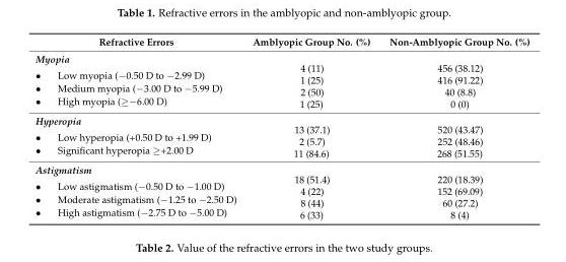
<table><thead><tr><td>Refractive Errors</td><td>Amblyopic Group No. (%)</td><td>Non-Amblyopic Group No. (%)</td></tr></thead><tbody><tr><td>Myopia • Low myopia (−0.50 D to −2.99 D) • Medium myopia (−3.00 D to −5.99 D) • High myopia (≥−6.00 D)</td><td>4 (11) 1 (25) 2 (50) 1 (25)</td><td>456 (38.12) 416 (91.22) 40 (8.8) 0 (0)</td></tr><tr><td>Hyperopia • Low hyperopia (+0.50 D to +1.99 D) • Significant hyperopia ≥+2.00 D</td><td>13 (37.1) 2 (5.7) 11 (84.6)</td><td>520 (43.47) 252 (48.46) 268 (51.55)</td></tr><tr><td>Astigmatism • Low astigmatism (−0.50 D to −1.00 D) • Moderate astigmatism (−1.25 to −2.50 D) • High astigmatism (−2.75 D to −5.00 D)</td><td>18 (51.4) 4 (22) 8 (44) 6 (33)</td><td>220 (18.39) 152 (69.09) 60 (27.2) 8 (4)</td></tr></tbody></table>